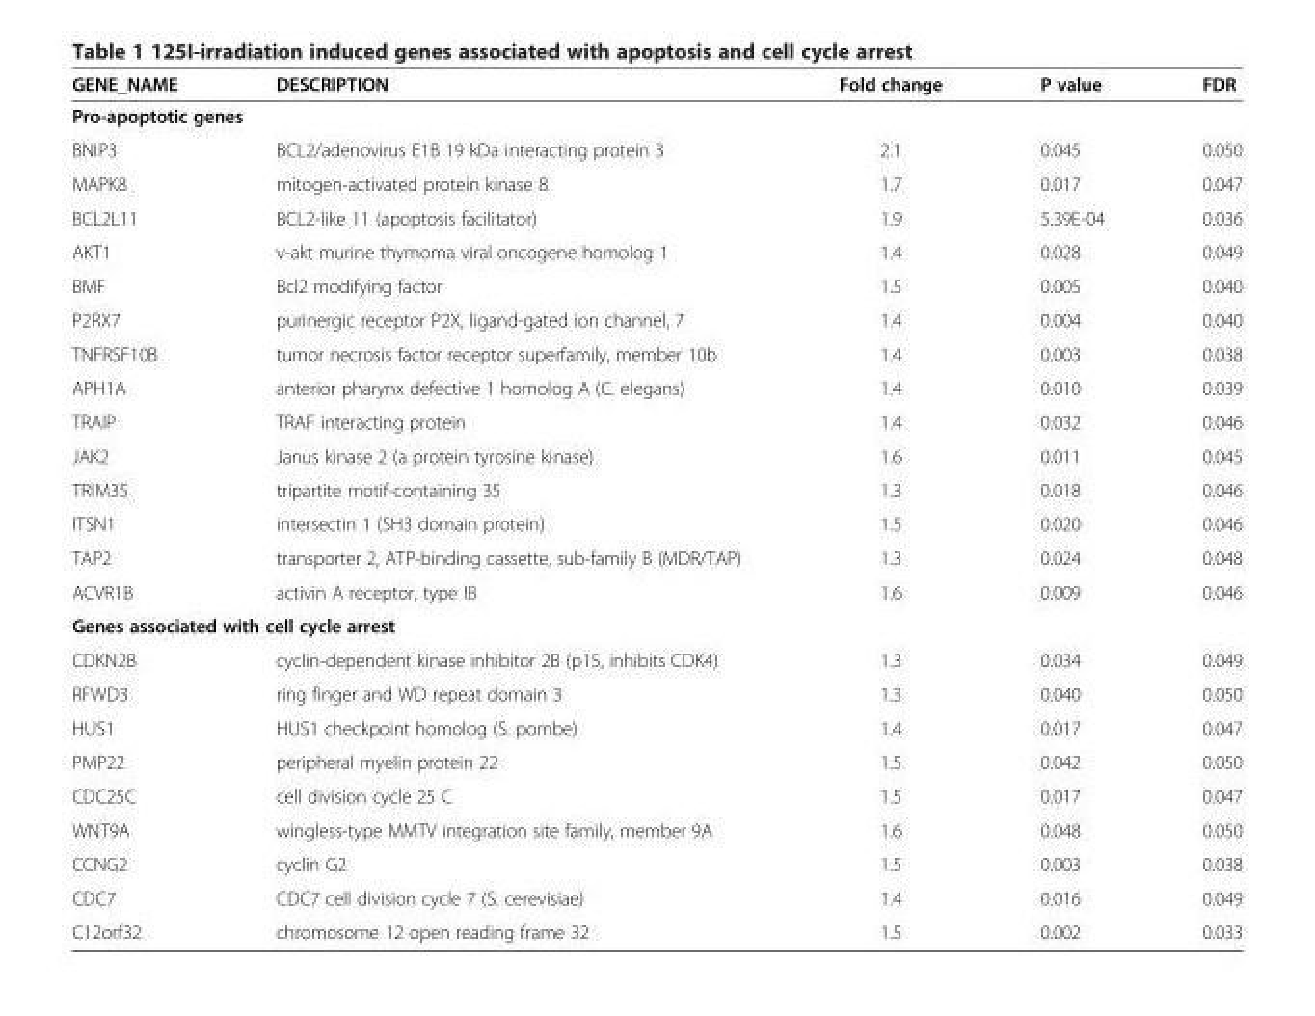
<table><thead><tr><td>GENE_NAME</td><td>DESCRIPTION</td><td>Fold change</td><td>P value</td><td>FDR</td></tr></thead><tbody><tr><td colspan="5">Pro-apoptotic genes</td></tr><tr><td>BNIP3</td><td>BCL2/adenovirus E1B 19 kDa interacting protein 3</td><td>2.1</td><td>0.045</td><td>0.050</td></tr><tr><td>MAPK8</td><td>mitogen-activated protein kinase 8</td><td>1.7</td><td>0.017</td><td>0.047</td></tr><tr><td>BCL2L11</td><td>BCL2-like 11 (apoptosis facilitator)</td><td>1.9</td><td>5.39E-04</td><td>0.036</td></tr><tr><td>AKT1</td><td>v-akt murine thymoma viral oncogene homolog 1</td><td>1.4</td><td>0.028</td><td>0.049</td></tr><tr><td>BMF</td><td>Bcl2 modifying factor</td><td>1.5</td><td>0.005</td><td>0.040</td></tr><tr><td>P2RX7</td><td>purinergic receptor P2X, ligand-gated ion channel, 7</td><td>1.4</td><td>0.004</td><td>0.040</td></tr><tr><td>TNFRSF10B</td><td>tumor necrosis factor receptor superfamily, member 10b</td><td>1.4</td><td>0.003</td><td>0.038</td></tr><tr><td>APH1A</td><td>anterior pharynx defective 1 homolog A (C. elegans)</td><td>1.4</td><td>0.010</td><td>0.039</td></tr><tr><td>TRAIP</td><td>TRAF interacting protein</td><td>1.4</td><td>0.032</td><td>0.046</td></tr><tr><td>JAK2</td><td>Janus kinase 2 (a protein tyrosine kinase)</td><td>1.6</td><td>0.011</td><td>0.045</td></tr><tr><td>TRIM35</td><td>tripartite motif-containing 35</td><td>1.3</td><td>0.018</td><td>0.046</td></tr><tr><td>ITSN1</td><td>intersectin 1 (SH3 domain protein)</td><td>1.5</td><td>0.020</td><td>0.046</td></tr><tr><td>TAP2</td><td>transporter 2, ATP-binding cassette, sub-family B (MDR/TAP)</td><td>1.3</td><td>0.024</td><td>0.048</td></tr><tr><td>ACVR1B</td><td>activin A receptor, type IB</td><td>1.6</td><td>0.009</td><td>0.046</td></tr><tr><td colspan="5">Genes associated with cell cycle arrest</td></tr><tr><td>CDKN2B</td><td>cyclin-dependent kinase inhibitor 2B (p15, inhibits CDK4)</td><td>1.3</td><td>0.034</td><td>0.049</td></tr><tr><td>RFWD3</td><td>ring finger and WD repeat domain 3</td><td>1.3</td><td>0.040</td><td>0.050</td></tr><tr><td>HUS1</td><td>HUS1 checkpoint homolog (S. pombe)</td><td>1.4</td><td>0.017</td><td>0.047</td></tr><tr><td>PMP22</td><td>peripheral myelin protein 22</td><td>1.5</td><td>0.042</td><td>0.050</td></tr><tr><td>CDC25C</td><td>cell division cycle 25 C</td><td>1.5</td><td>0.017</td><td>0.047</td></tr><tr><td>WNT9A</td><td>wingless-type MMTV integration site family, member 9A</td><td>1.6</td><td>0.048</td><td>0.050</td></tr><tr><td>CCNG2</td><td>cyclin G2</td><td>1.5</td><td>0.003</td><td>0.038</td></tr><tr><td>CDC7</td><td>CDC7 cell division cycle 7 (S. cerevisiae)</td><td>1.4</td><td>0.016</td><td>0.049</td></tr><tr><td>C12orf32</td><td>chromosome 12 open reading frame 32</td><td>1.5</td><td>0.002</td><td>0.033</td></tr></tbody></table>